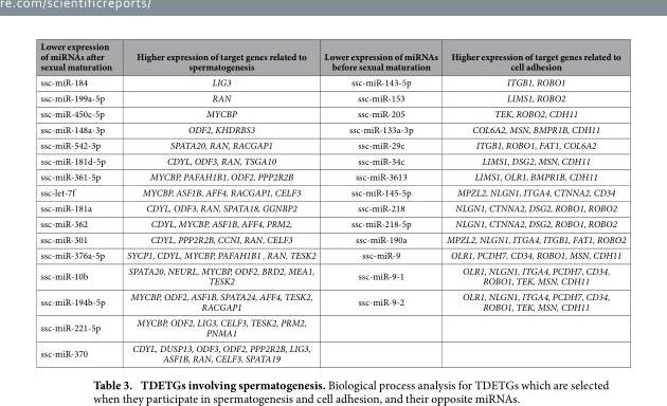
<table><thead><tr><td>Lower expression of miRNAs after sexual maturation</td><td>Higher expression of target genes related to spermatogenesis</td><td>Lower expression of miRNAs before sexual maturation</td><td>Higher expression of target genes related to cell adhesion</td></tr></thead><tbody><tr><td>ssc-miR-184</td><td>LIG3</td><td>ssc-miR-143-5p</td><td>ITGB1, ROBO1</td></tr><tr><td>ssc-miR-199a-5p</td><td>RAN</td><td>ssc-miR-153</td><td>LIMS1, ROBO2</td></tr><tr><td>ssc-miR-450c-5p</td><td>MYCBP</td><td>ssc-miR-205</td><td>TEK, ROBO2, CDH11</td></tr><tr><td>ssc-miR-148a-3p</td><td>ODF2, KHDRBS3</td><td>ssc-miR-133a-3p</td><td>COL6A2, MSN, BMPR1B, CDH11</td></tr><tr><td>ssc-miR-542-3p</td><td>SPATA20, RAN, RACGAP1</td><td>ssc-miR-29c</td><td>ITGB1, ROBO1, FAT1, COL6A2</td></tr><tr><td>ssc-miR-181d-5p</td><td>CDYL, ODF3, RAN, TSGA10</td><td>ssc-miR-34c</td><td>LIMS1, DSG2, MSN, CDH11</td></tr><tr><td>ssc-miR-361-5p</td><td>MYCBP, PAFAH1B1, ODF2, PPP2R2B</td><td>ssc-miR-3613</td><td>LIMS1, OLR1, BMPR1B, CDH11</td></tr><tr><td>ssc-let-7f</td><td>MYCBP, ASF1B, AFF4, RACGAP1, CELF3</td><td>ssc-miR-145-5p</td><td>MPZL2, NLGN1, ITGA4, CTNNA2, CD34</td></tr><tr><td>ssc-miR-181a</td><td>CDYL, ODF3, RAN, SPATA18, GGNBP2</td><td>ssc-miR-218</td><td>NLGN1, CTNNA2, DSG2, ROBO1, ROBO2</td></tr><tr><td>ssc-miR-362</td><td>CDYL, MYCBP, ASF1B, AFF4, PRM2,</td><td>ssc-miR-218-5p</td><td>NLGN1, CTNNA2, DSG2, ROBO1, ROBO2</td></tr><tr><td>ssc-miR-301</td><td>CDYL, PPP2R2B, CCNI, RAN, CELF3</td><td>ssc-miR-190a</td><td>MPZL2, NLGN1, ITGA4, ITGB1, FAT1, ROBO2</td></tr><tr><td>ssc-miR-376a-5p</td><td>SYCP1, CDYL, MYCBP, PAFAH1B1 , RAN, TESK2</td><td>ssc-miR-9</td><td>OLR1, PCDH7, CD34, ROBO1, MSN, CDH11</td></tr><tr><td>ssc-miR-10b</td><td>SPATA20, NEURL, MYCBP, ODF2, BRD2, MEA1, TESK2</td><td>ssc-miR-9-1</td><td>OLR1, NLGN1, ITGA4, PCDH7, CD34, ROBO1, TEK, MSN, CDH11</td></tr><tr><td>ssc-miR-194b-5p</td><td>MYCBP, ODF2, ASF1B, SPATA24, AFF4, TESK2, RACGAP1</td><td>ssc-miR-9-2</td><td>OLR1, NLGN1, ITGA4, PCDH7, CD34, ROBO1, TEK, MSN, CDH11</td></tr><tr><td>ssc-miR-221-5p</td><td>MYCBP, ODF2, LIG3, CELF3, TESK2, PRM2, PNMA1</td><td></td><td></td></tr><tr><td>ssc-miR-370</td><td>CDYL, DUSP13, ODF3, ODF2, PPP2R2B, LIG3, ASF1B, RAN, CELF3, SPATA19</td><td></td><td></td></tr></tbody></table>